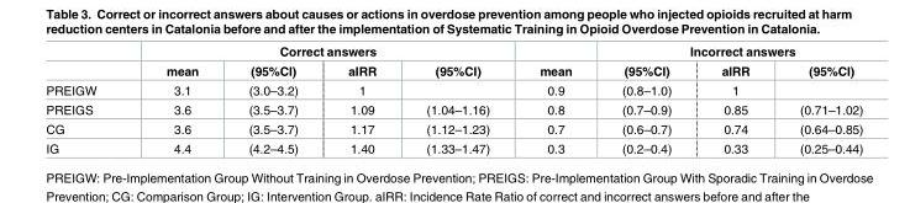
<table><thead><tr><td rowspan="2"></td><td colspan="4">Correct answers</td><td rowspan="2">mean</td><td colspan="3">Incorrect answers</td></tr><tr><td>mean</td><td>(95%CI)</td><td>aIRR</td><td>(95%CI)</td><td>(95%CI)</td><td>aIRR</td><td>(95%CI)</td></tr></thead><tbody><tr><td>PREIGW</td><td>3.1</td><td>(3.0–3.2)</td><td>1</td><td></td><td>0.9</td><td>(0.8–1.0)</td><td>1</td><td></td></tr><tr><td>PREIGS</td><td>3.6</td><td>(3.5–3.7)</td><td>1.09</td><td>(1.04–1.16)</td><td>0.8</td><td>(0.7–0.9)</td><td>0.85</td><td>(0.71–1.02)</td></tr><tr><td>CG</td><td>3.6</td><td>(3.5–3.7)</td><td>1.17</td><td>(1.12–1.23)</td><td>0.7</td><td>(0.6–0.7)</td><td>0.74</td><td>(0.64–0.85)</td></tr><tr><td>IG</td><td>4.4</td><td>(4.2–4.5)</td><td>1.40</td><td>(1.33–1.47)</td><td>0.3</td><td>(0.2–0.4)</td><td>0.33</td><td>(0.25–0.44)</td></tr></tbody></table>